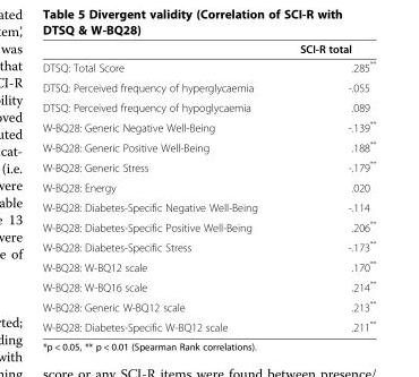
<table><thead><tr><td></td><td>SCI-R total</td></tr></thead><tbody><tr><td>DTSQ: Total Score</td><td>.285**</td></tr><tr><td>DTSQ: Perceived frequency of hyperglycaemia</td><td>-.055</td></tr><tr><td>DTSQ: Perceived frequency of hypoglycaemia</td><td>.089</td></tr><tr><td>W-BQ28: Generic Negative Well-Being</td><td>-.139**</td></tr><tr><td>W-BQ28: Generic Positive Well-Being</td><td>.188**</td></tr><tr><td>W-BQ28: Generic Stress</td><td>-.179**</td></tr><tr><td>W-BQ28: Energy</td><td>.020</td></tr><tr><td>W-BQ28: Diabetes-Specific Negative Well-Being</td><td>-.114</td></tr><tr><td>W-BQ28: Diabetes-Specific Positive Well-Being</td><td>.206**</td></tr><tr><td>W-BQ28: Diabetes-Specific Stress</td><td>-.173**</td></tr><tr><td>W-BQ28: W-BQ12 scale</td><td>.170**</td></tr><tr><td>W-BQ28: W-BQ16 scale</td><td>.214**</td></tr><tr><td>W-BQ28: Generic W-BQ12 scale</td><td>.213**</td></tr><tr><td>W-BQ28: Diabetes-Specific W-BQ12 scale</td><td>.211**</td></tr></tbody></table>